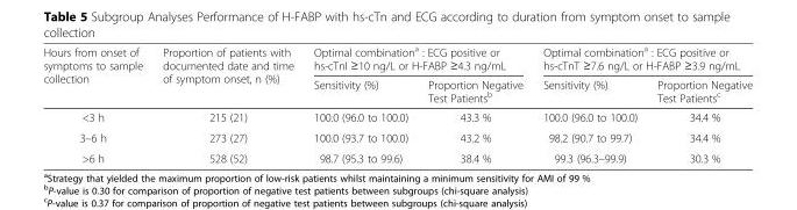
<table><thead><tr><td rowspan="2">Hours from onset of symptoms to sample collection</td><td rowspan="2">Proportion of patients with documented date and time of symptom onset, n (%)</td><td colspan="2">Optimal combination<sup>a</sup> : ECG positive or hs-cTnI ≥10 ng/L or H-FABP ≥4.3 ng/mL</td><td colspan="2">Optimal combination<sup>a</sup> : ECG positive or hs-cTnT ≥7.6 ng/L or H-FABP ≥3.9 ng/mL</td></tr><tr><td>Sensitivity (%)</td><td>Proportion Negative Test Patients<sup>b</sup></td><td>Sensitivity (%)</td><td>Proportion Negative Test Patients<sup>c</sup></td></tr></thead><tbody><tr><td>&lt;3 h</td><td>215 (21)</td><td>100.0 (96.0 to 100.0)</td><td>43.3 %</td><td>100.0 (96.0 to 100.0)</td><td>34.4 %</td></tr><tr><td>3–6 h</td><td>273 (27)</td><td>100.0 (93.7 to 100.0)</td><td>43.2 %</td><td>98.2 (90.7 to 99.7)</td><td>34.4 %</td></tr><tr><td>&gt;6 h</td><td>528 (52)</td><td>98.7 (95.3 to 99.6)</td><td>38.4 %</td><td>99.3 (96.3–99.9)</td><td>30.3 %</td></tr></tbody></table>